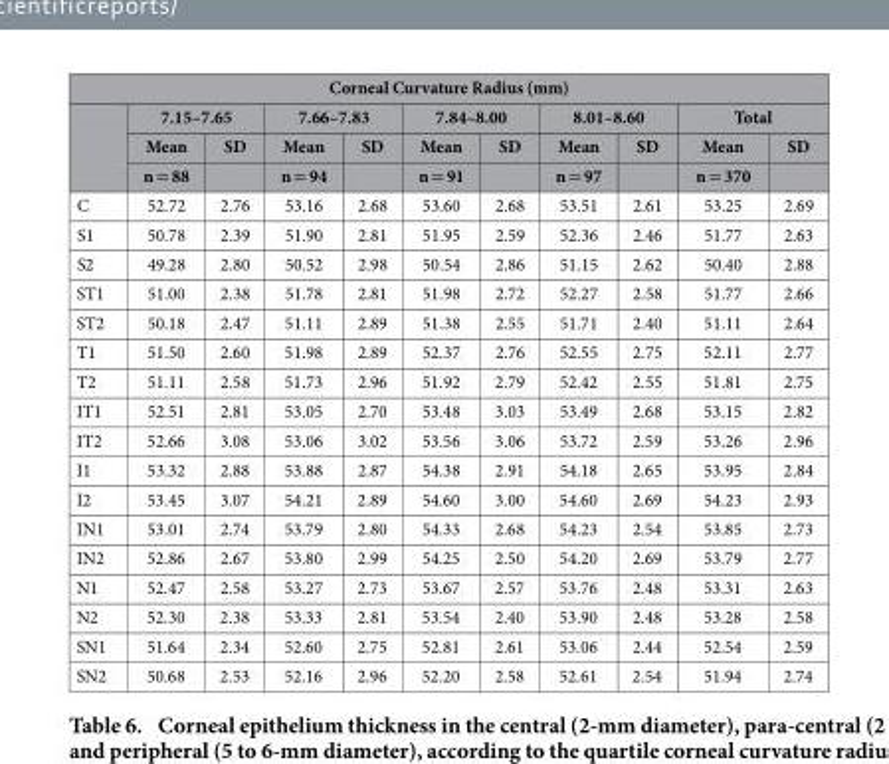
<table><thead><tr><td colspan="11">Corneal Curvature Radius (mm)</td></tr><tr><td rowspan="3"></td><td colspan="2">7.15–7.65</td><td colspan="2">7.66–7.83</td><td colspan="2">7.84–8.00</td><td colspan="2">8.01–8.60</td><td colspan="2">Total</td></tr><tr><td rowspan="2">Mean n = 88</td><td rowspan="2">SD</td><td rowspan="2">Mean n = 94</td><td rowspan="2">SD</td><td rowspan="2">Mean n = 91</td><td rowspan="2">SD</td><td rowspan="2">Mean n = 97</td><td rowspan="2">SD</td><td rowspan="2">Mean n = 370</td><td rowspan="2">SD</td></tr><tr></tr></thead><tbody><tr><td>C</td><td>52.72</td><td>2.76</td><td>53.16</td><td>2.68</td><td>53.60</td><td>2.68</td><td>53.51</td><td>2.61</td><td>53.25</td><td>2.69</td></tr><tr><td>S1</td><td>50.78</td><td>2.39</td><td>51.90</td><td>2.81</td><td>51.95</td><td>2.59</td><td>52.36</td><td>2.46</td><td>51.77</td><td>2.63</td></tr><tr><td>S2</td><td>49.28</td><td>2.80</td><td>50.52</td><td>2.98</td><td>50.54</td><td>2.86</td><td>51.15</td><td>2.62</td><td>50.40</td><td>2.88</td></tr><tr><td>ST1</td><td>51.00</td><td>2.38</td><td>51.78</td><td>2.81</td><td>51.98</td><td>2.72</td><td>52.27</td><td>2.58</td><td>51.77</td><td>2.66</td></tr><tr><td>ST2</td><td>50.18</td><td>2.47</td><td>51.11</td><td>2.89</td><td>51.38</td><td>2.55</td><td>51.71</td><td>2.40</td><td>51.11</td><td>2.64</td></tr><tr><td>T1</td><td>51.50</td><td>2.60</td><td>51.98</td><td>2.89</td><td>52.37</td><td>2.76</td><td>52.55</td><td>2.75</td><td>52.11</td><td>2.77</td></tr><tr><td>T2</td><td>51.11</td><td>2.58</td><td>51.73</td><td>2.96</td><td>51.92</td><td>2.79</td><td>52.42</td><td>2.55</td><td>51.81</td><td>2.75</td></tr><tr><td>IT1</td><td>52.51</td><td>2.81</td><td>53.05</td><td>2.70</td><td>53.48</td><td>3.03</td><td>53.49</td><td>2.68</td><td>53.15</td><td>2.82</td></tr><tr><td>IT2</td><td>52.66</td><td>3.08</td><td>53.06</td><td>3.02</td><td>53.56</td><td>3.06</td><td>53.72</td><td>2.59</td><td>53.26</td><td>2.96</td></tr><tr><td>I1</td><td>53.32</td><td>2.88</td><td>53.88</td><td>2.87</td><td>54.38</td><td>2.91</td><td>54.18</td><td>2.65</td><td>53.95</td><td>2.84</td></tr><tr><td>I2</td><td>53.45</td><td>3.07</td><td>54.21</td><td>2.89</td><td>54.60</td><td>3.00</td><td>54.60</td><td>2.69</td><td>54.23</td><td>2.93</td></tr><tr><td>IN1</td><td>53.01</td><td>2.74</td><td>53.79</td><td>2.80</td><td>54.33</td><td>2.68</td><td>54.23</td><td>2.54</td><td>53.85</td><td>2.73</td></tr><tr><td>IN2</td><td>52.86</td><td>2.67</td><td>53.80</td><td>2.99</td><td>54.25</td><td>2.50</td><td>54.20</td><td>2.69</td><td>53.79</td><td>2.77</td></tr><tr><td>N1</td><td>52.47</td><td>2.58</td><td>53.27</td><td>2.73</td><td>53.67</td><td>2.57</td><td>53.76</td><td>2.48</td><td>53.31</td><td>2.63</td></tr><tr><td>N2</td><td>52.30</td><td>2.38</td><td>53.33</td><td>2.81</td><td>53.54</td><td>2.40</td><td>53.90</td><td>2.48</td><td>53.28</td><td>2.58</td></tr><tr><td>SN1</td><td>51.64</td><td>2.34</td><td>52.60</td><td>2.75</td><td>52.81</td><td>2.61</td><td>53.06</td><td>2.44</td><td>52.54</td><td>2.59</td></tr><tr><td>SN2</td><td>50.68</td><td>2.53</td><td>52.16</td><td>2.96</td><td>52.20</td><td>2.58</td><td>52.61</td><td>2.54</td><td>51.94</td><td>2.74</td></tr></tbody></table>